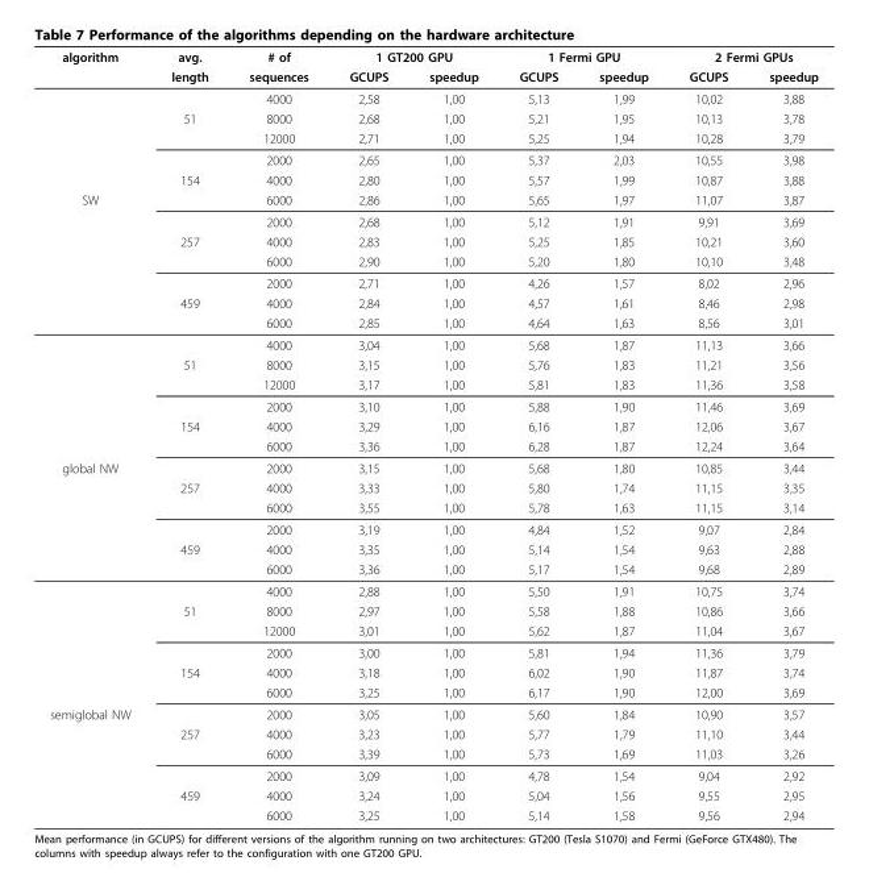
<table><thead><tr><td rowspan="2">algorithm</td><td rowspan="2">avg. length</td><td rowspan="2"># of sequences</td><td colspan="2">1 GT200 GPU</td><td colspan="2">1 Fermi GPU</td><td colspan="2">2 Fermi GPUs</td></tr><tr><td>GCUPS</td><td>speedup</td><td>GCUPS</td><td>speedup</td><td>GCUPS</td><td>speedup</td></tr></thead><tbody><tr><td></td><td></td><td>4000</td><td>2,58</td><td>1,00</td><td>5,13</td><td>1,99</td><td>10,02</td><td>3,88</td></tr><tr><td></td><td>51</td><td>8000</td><td>2,68</td><td>1,00</td><td>5,21</td><td>1,95</td><td>10,13</td><td>3,78</td></tr><tr><td></td><td></td><td>12000</td><td>2,71</td><td>1,00</td><td>5,25</td><td>1,94</td><td>10,28</td><td>3,79</td></tr><tr><td></td><td></td><td>2000</td><td>2,65</td><td>1,00</td><td>5,37</td><td>2,03</td><td>10,55</td><td>3,98</td></tr><tr><td></td><td>154</td><td>4000</td><td>2,80</td><td>1,00</td><td>5,57</td><td>1,99</td><td>10,87</td><td>3,88</td></tr><tr><td rowspan="13">SW</td><td></td><td>6000</td><td>2,86</td><td>1,00</td><td>5,65</td><td>1,97</td><td>11,07</td><td>3,87</td></tr><tr><td></td><td>2000</td><td>2,68</td><td>1,00</td><td>5,12</td><td>1,91</td><td>9,91</td><td>3,69</td></tr><tr><td>257</td><td>4000</td><td>2,83</td><td>1,00</td><td>5,25</td><td>1,85</td><td>10,21</td><td>3,60</td></tr><tr><td></td><td>6000</td><td>2,90</td><td>1,00</td><td>5,20</td><td>1,80</td><td>10,10</td><td>3,48</td></tr><tr><td></td><td>2000</td><td>2,71</td><td>1,00</td><td>4,26</td><td>1,57</td><td>8,02</td><td>2,96</td></tr><tr><td>459</td><td>4000</td><td>2,84</td><td>1,00</td><td>4,57</td><td>1,61</td><td>8,46</td><td>2,98</td></tr><tr><td></td><td>6000</td><td>2,85</td><td>1,00</td><td>4,64</td><td>1,63</td><td>8,56</td><td>3,01</td></tr><tr><td></td><td>4000</td><td>3,04</td><td>1,00</td><td>5,68</td><td>1,87</td><td>11,13</td><td>3,66</td></tr><tr><td>51</td><td>8000</td><td>3,15</td><td>1,00</td><td>5,76</td><td>1,83</td><td>11,21</td><td>3,56</td></tr><tr><td></td><td>12000</td><td>3,17</td><td>1,00</td><td>5,81</td><td>1,83</td><td>11,36</td><td>3,58</td></tr><tr><td></td><td>2000</td><td>3,10</td><td>1,00</td><td>5,88</td><td>1,90</td><td>11,46</td><td>3,69</td></tr><tr><td>154</td><td>4000</td><td>3,29</td><td>1,00</td><td>6,16</td><td>1,87</td><td>12,06</td><td>3,67</td></tr><tr><td></td><td>6000</td><td>3,36</td><td>1,00</td><td>6,28</td><td>1,87</td><td>12,24</td><td>3,64</td></tr><tr><td rowspan="12">global NW</td><td></td><td>2000</td><td>3,15</td><td>1,00</td><td>5,68</td><td>1,80</td><td>10,85</td><td>3,44</td></tr><tr><td>257</td><td>4000</td><td>3,33</td><td>1,00</td><td>5,80</td><td>1,74</td><td>11,15</td><td>3,35</td></tr><tr><td></td><td>6000</td><td>3,55</td><td>1,00</td><td>5,78</td><td>1,63</td><td>11,15</td><td>3,14</td></tr><tr><td></td><td>2000</td><td>3,19</td><td>1,00</td><td>4,84</td><td>1,52</td><td>9,07</td><td>2,84</td></tr><tr><td>459</td><td>4000</td><td>3,35</td><td>1,00</td><td>5,14</td><td>1,54</td><td>9,63</td><td>2,88</td></tr><tr><td></td><td>6000</td><td>3,36</td><td>1,00</td><td>5,17</td><td>1,54</td><td>9,68</td><td>2,89</td></tr><tr><td></td><td>4000</td><td>2,88</td><td>1,00</td><td>5,50</td><td>1,91</td><td>10,75</td><td>3,74</td></tr><tr><td>51</td><td>8000</td><td>2,97</td><td>1,00</td><td>5,58</td><td>1,88</td><td>10,86</td><td>3,66</td></tr><tr><td></td><td>12000</td><td>3,01</td><td>1,00</td><td>5,62</td><td>1,87</td><td>11,04</td><td>3,67</td></tr><tr><td></td><td>2000</td><td>3,00</td><td>1,00</td><td>5,81</td><td>1,94</td><td>11,36</td><td>3,79</td></tr><tr><td>154</td><td>4000</td><td>3,18</td><td>1,00</td><td>6,02</td><td>1,90</td><td>11,87</td><td>3,74</td></tr><tr><td></td><td>6000</td><td>3,25</td><td>1,00</td><td>6,17</td><td>1,90</td><td>12,00</td><td>3,69</td></tr><tr><td rowspan="6">semiglobal NW</td><td></td><td>2000</td><td>3,05</td><td>1,00</td><td>5,60</td><td>1,84</td><td>10,90</td><td>3,57</td></tr><tr><td>257</td><td>4000</td><td>3,23</td><td>1,00</td><td>5,77</td><td>1,79</td><td>11,10</td><td>3,44</td></tr><tr><td></td><td>6000</td><td>3,39</td><td>1,00</td><td>5,73</td><td>1,69</td><td>11,03</td><td>3,26</td></tr><tr><td></td><td>2000</td><td>3,09</td><td>1,00</td><td>4,78</td><td>1,54</td><td>9,04</td><td>2,92</td></tr><tr><td>459</td><td>4000</td><td>3,24</td><td>1,00</td><td>5,04</td><td>1,56</td><td>9,55</td><td>2,95</td></tr><tr><td></td><td>6000</td><td>3,25</td><td>1,00</td><td>5,14</td><td>1,58</td><td>9,56</td><td>2,94</td></tr></tbody></table>